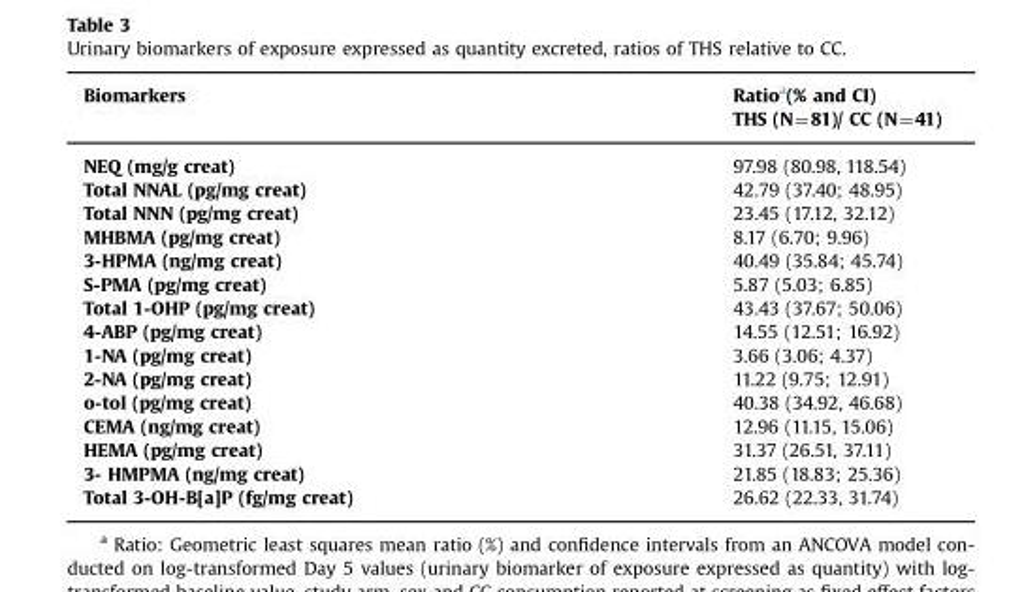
<table><thead><tr><td rowspan="2">Biomarkers</td><td rowspan="2">Ratio<sup>a</sup>(% and CI) THS (N=81)/ CC (N=41)</td></tr><tr></tr></thead><tbody><tr><td>NEQ (mg/g creat)</td><td>97.98 (80.98, 118.54)</td></tr><tr><td>Total NNAL (pg/mg creat)</td><td>42.79 (37.40; 48.95)</td></tr><tr><td>Total NNN (pg/mg creat)</td><td>23.45 (17.12, 32.12)</td></tr><tr><td>MHBMA (pg/mg creat)</td><td>8.17 (6.70; 9.96)</td></tr><tr><td>3-HPMA (ng/mg creat)</td><td>40.49 (35.84; 45.74)</td></tr><tr><td>S-PMA (pg/mg creat)</td><td>5.87 (5.03; 6.85)</td></tr><tr><td>Total 1-OHP (pg/mg creat)</td><td>43.43 (37.67; 50.06)</td></tr><tr><td>4-ABP (pg/mg creat)</td><td>14.55 (12.51; 16.92)</td></tr><tr><td>1-NA (pg/mg creat)</td><td>3.66 (3.06; 4.37)</td></tr><tr><td>2-NA (pg/mg creat)</td><td>11.22 (9.75; 12.91)</td></tr><tr><td>o-tol (pg/mg creat)</td><td>40.38 (34.92, 46.68)</td></tr><tr><td>CEMA (ng/mg creat)</td><td>12.96 (11.15, 15.06)</td></tr><tr><td>HEMA (pg/mg creat)</td><td>31.37 (26.51, 37.11)</td></tr><tr><td>3- HMPMA (ng/mg creat)</td><td>21.85 (18.83; 25.36)</td></tr><tr><td>Total 3-OH-B[a]P (fg/mg creat)</td><td>26.62 (22.33, 31.74)</td></tr></tbody></table>